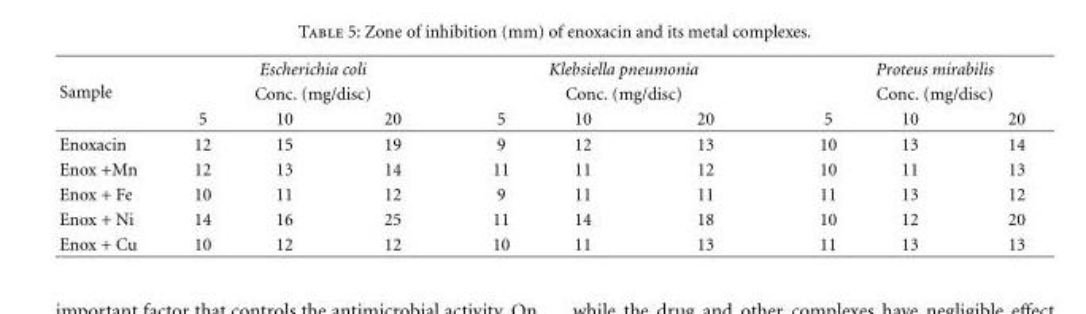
<table><thead><tr><td rowspan="3">Sample</td><td rowspan="2" colspan="3">Escherichia coli Conc. (mg/disc)</td><td rowspan="2" colspan="3">Klebsiella pneumonia Conc. (mg/disc)</td><td rowspan="2" colspan="3">Proteus mirabilis Conc. (mg/disc)</td></tr><tr></tr><tr><td>5</td><td>10</td><td>20</td><td>5</td><td>10</td><td>20</td><td>5</td><td>10</td><td>20</td></tr></thead><tbody><tr><td>Enoxacin</td><td>12</td><td>15</td><td>19</td><td>9</td><td>12</td><td>13</td><td>10</td><td>13</td><td>14</td></tr><tr><td>Enox +Mn</td><td>12</td><td>13</td><td>14</td><td>11</td><td>11</td><td>12</td><td>10</td><td>11</td><td>13</td></tr><tr><td>Enox + Fe</td><td>10</td><td>11</td><td>12</td><td>9</td><td>11</td><td>11</td><td>11</td><td>13</td><td>12</td></tr><tr><td>Enox + Ni</td><td>14</td><td>16</td><td>25</td><td>11</td><td>14</td><td>18</td><td>10</td><td>12</td><td>20</td></tr><tr><td>Enox + Cu</td><td>10</td><td>12</td><td>12</td><td>10</td><td>11</td><td>13</td><td>11</td><td>13</td><td>13</td></tr></tbody></table>